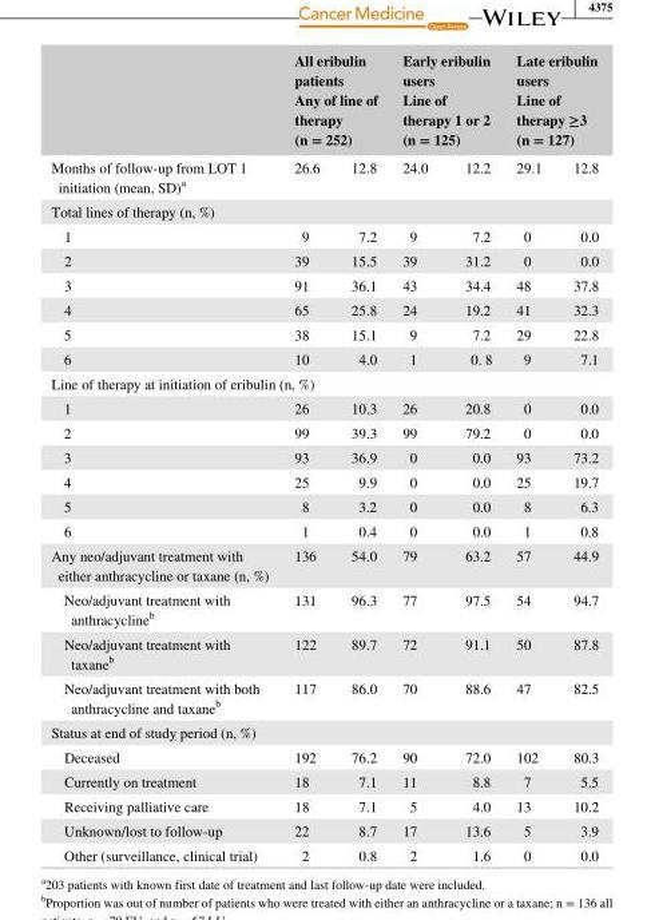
<table><thead><tr><td rowspan="2">Months of follow- up from LOT 1 initiation (mean, SD)<sup>a</sup></td><td colspan="2">All eribulin patients Any of line of therapy (n = 252)</td><td colspan="2">Early eribulin users Line of therapy 1 or 2 (n = 125)</td><td colspan="2">Late eribulin users Line of therapy ≥3 (n = 127)</td></tr><tr><td>26.6</td><td>12.8</td><td>24.0</td><td>12.2</td><td>29.1</td><td>12.8</td></tr></thead><tbody><tr><td colspan="7">Total lines of therapy (n, %)</td></tr><tr><td>1</td><td>9</td><td>7.2</td><td>9</td><td>7.2</td><td>0</td><td>0.0</td></tr><tr><td>2</td><td>39</td><td>15.5</td><td>39</td><td>31.2</td><td>0</td><td>0.0</td></tr><tr><td>3</td><td>91</td><td>36.1</td><td>43</td><td>34.4</td><td>48</td><td>37.8</td></tr><tr><td>4</td><td>65</td><td>25.8</td><td>24</td><td>19.2</td><td>41</td><td>32.3</td></tr><tr><td>5</td><td>38</td><td>15.1</td><td>9</td><td>7.2</td><td>29</td><td>22.8</td></tr><tr><td>6</td><td>10</td><td>4.0</td><td>1</td><td>0. 8</td><td>9</td><td>7.1</td></tr><tr><td colspan="7">Line of therapy at initiation of eribulin (n, %)</td></tr><tr><td>1</td><td>26</td><td>10.3</td><td>26</td><td>20.8</td><td>0</td><td>0.0</td></tr><tr><td>2</td><td>99</td><td>39.3</td><td>99</td><td>79.2</td><td>0</td><td>0.0</td></tr><tr><td>3</td><td>93</td><td>36.9</td><td>0</td><td>0.0</td><td>93</td><td>73.2</td></tr><tr><td>4</td><td>25</td><td>9.9</td><td>0</td><td>0.0</td><td>25</td><td>19.7</td></tr><tr><td>5</td><td>8</td><td>3.2</td><td>0</td><td>0.0</td><td>8</td><td>6.3</td></tr><tr><td>6</td><td>1</td><td>0.4</td><td>0</td><td>0.0</td><td>1</td><td>0.8</td></tr><tr><td>Any neo/adjuvant treatment with either anthracycline or taxane (n, %)</td><td>136</td><td>54.0</td><td>79</td><td>63.2</td><td>57</td><td>44.9</td></tr><tr><td>Neo/adjuvant treatment with anthracycline<sup>b</sup></td><td>131</td><td>96.3</td><td>77</td><td>97.5</td><td>54</td><td>94.7</td></tr><tr><td>Neo/adjuvant treatment with taxane<sup>b</sup></td><td>122</td><td>89.7</td><td>72</td><td>91.1</td><td>50</td><td>87.8</td></tr><tr><td>Neo/adjuvant treatment with both anthracycline and taxane<sup>b</sup></td><td>117</td><td>86.0</td><td>70</td><td>88.6</td><td>47</td><td>82.5</td></tr><tr><td colspan="7">Status at end of study period (n, %)</td></tr><tr><td>Deceased</td><td>192</td><td>76.2</td><td>90</td><td>72.0</td><td>102</td><td>80.3</td></tr><tr><td>Currently on treatment</td><td>18</td><td>7.1</td><td>11</td><td>8.8</td><td>7</td><td>5.5</td></tr><tr><td>Receiving palliative care</td><td>18</td><td>7.1</td><td>5</td><td>4.0</td><td>13</td><td>10.2</td></tr><tr><td>Unknown/lost to follow- up</td><td>22</td><td>8.7</td><td>17</td><td>13.6</td><td>5</td><td>3.9</td></tr><tr><td>Other (surveillance, clinical trial)</td><td>2</td><td>0.8</td><td>2</td><td>1.6</td><td>0</td><td>0.0</td></tr></tbody></table>